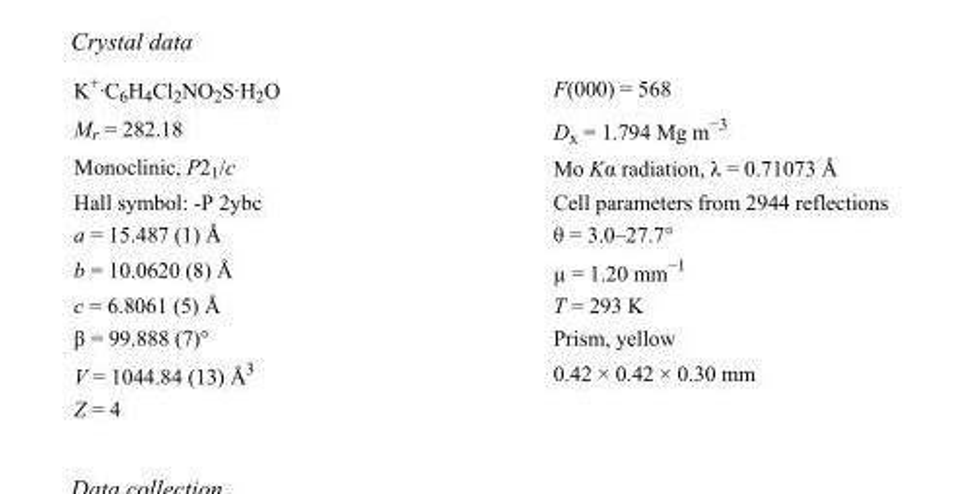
<table><tbody><tr><td>K<sup>+</sup>·C<sub>6</sub>H<sub>4</sub>Cl<sub>2</sub>NO<sub>2</sub>S·H<sub>2</sub>O</td><td>F(000) = 568</td></tr><tr><td>M<sub>r</sub> = 282.18</td><td>D<sub>x</sub> = 1.794 Mg m<sup>−3</sup></td></tr><tr><td>Monoclinic, P2<sub>1</sub>/c</td><td>Mo Kα radiation, λ = 0.71073 Å</td></tr><tr><td>Hall symbol: -P 2ybc</td><td>Cell parameters from 2944 reflections</td></tr><tr><td>a = 15.487 (1) Å</td><td>θ = 3.0–27.7°</td></tr><tr><td>b = 10.0620 (8) Å</td><td>µ = 1.20 mm<sup>−1</sup></td></tr><tr><td>c = 6.8061 (5) Å</td><td>T = 293 K</td></tr><tr><td>β = 99.888 (7)°</td><td>Prism, yellow</td></tr><tr><td>V = 1044.84 (13) Å<sup>3</sup></td><td>0.42 × 0.42 × 0.30 mm</td></tr><tr><td>Z = 4</td><td></td></tr></tbody></table>